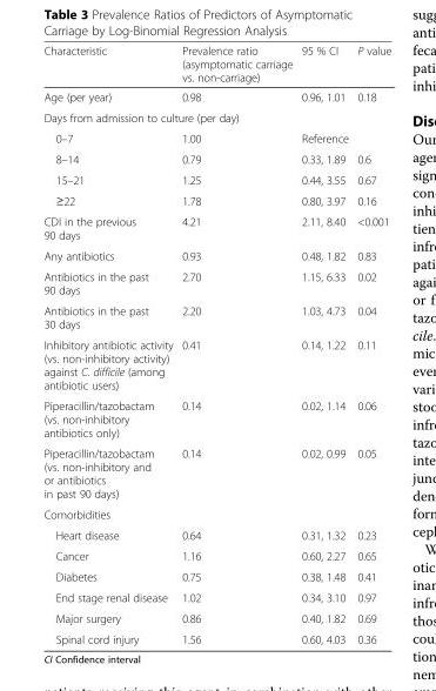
<table><thead><tr><td>Characteristic</td><td>Prevalence ratio (asymptomatic carriage vs. non-carriage)</td><td>95 % CI</td><td>P value</td></tr></thead><tbody><tr><td>Age (per year)</td><td>0.98</td><td>0.96, 1.01</td><td>0.18</td></tr><tr><td colspan="4">Days from admission to culture (per day)</td></tr><tr><td>0–7</td><td>1.00</td><td>Reference</td><td></td></tr><tr><td>8–14</td><td>0.79</td><td>0.33, 1.89</td><td>0.6</td></tr><tr><td>15–21</td><td>1.25</td><td>0.44, 3.55</td><td>0.67</td></tr><tr><td>≥22</td><td>1.78</td><td>0.80, 3.97</td><td>0.16</td></tr><tr><td>CDI in the previous 90 days</td><td>4.21</td><td>2.11, 8.40</td><td>&lt;0.001</td></tr><tr><td>Any antibiotics</td><td>0.93</td><td>0.48, 1.82</td><td>0.83</td></tr><tr><td>Antibiotics in the past 90 days</td><td>2.70</td><td>1.15, 6.33</td><td>0.02</td></tr><tr><td>Antibiotics in the past 30 days</td><td>2.20</td><td>1.03, 4.73</td><td>0.04</td></tr><tr><td>Inhibitory antibiotic activity (vs. non-inhibitory activity) against C. difficile (among antibiotic users)</td><td>0.41</td><td>0.14, 1.22</td><td>0.11</td></tr><tr><td>Piperacillin/tazobactam (vs. non-inhibitory antibiotics only)</td><td>0.14</td><td>0.02, 1.14</td><td>0.06</td></tr><tr><td>Piperacillin/tazobactam (vs. non-inhibitory and or antibiotics in past 90 days)</td><td>0.14</td><td>0.02, 0.99</td><td>0.05</td></tr><tr><td colspan="4">Comorbidities</td></tr><tr><td>Heart disease</td><td>0.64</td><td>0.31, 1.32</td><td>0.23</td></tr><tr><td>Cancer</td><td>1.16</td><td>0.60, 2.27</td><td>0.65</td></tr><tr><td>Diabetes</td><td>0.75</td><td>0.38, 1.48</td><td>0.41</td></tr><tr><td>End stage renal disease</td><td>1.02</td><td>0.34, 3.10</td><td>0.97</td></tr><tr><td>Major surgery</td><td>0.86</td><td>0.40, 1.82</td><td>0.69</td></tr><tr><td>Spinal cord injury</td><td>1.56</td><td>0.60, 4.03</td><td>0.36</td></tr></tbody></table>